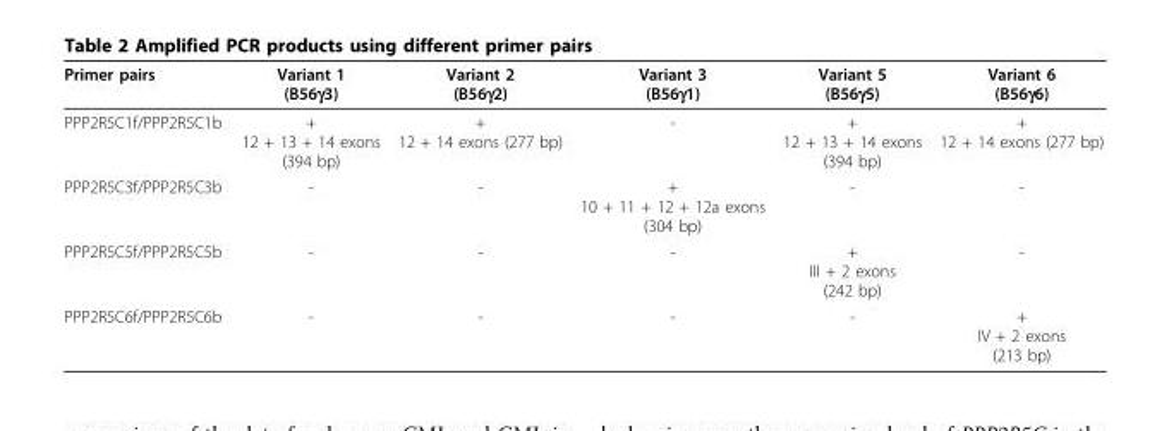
<table><thead><tr><td>Primer pairs</td><td>Variant 1 (B56γ3)</td><td>Variant 2 (B56γ2)</td><td>Variant 3 (B56γ1)</td><td>Variant 5 (B56γ5)</td><td>Variant 6 (B56γ6)</td></tr></thead><tbody><tr><td>PPP2R5C1f/PPP2R5C1b</td><td>+ 12 + 13 + 14 exons (394 bp)</td><td>+ 12 + 14 exons (277 bp)</td><td>-</td><td>+ 12 + 13 + 14 exons (394 bp)</td><td>+ 12 + 14 exons (277 bp)</td></tr><tr><td>PPP2R5C3f/PPP2R5C3b</td><td>-</td><td>-</td><td>+ 10 + 11 + 12 + 12a exons (304 bp)</td><td>-</td><td>-</td></tr><tr><td>PPP2R5C5f/PPP2R5C5b</td><td>-</td><td>-</td><td>-</td><td>+ III + 2 exons (242 bp)</td><td>-</td></tr><tr><td>PPP2R5C6f/PPP2R5C6b</td><td>-</td><td>-</td><td>-</td><td>-</td><td>+ IV + 2 exons (213 bp)</td></tr></tbody></table>